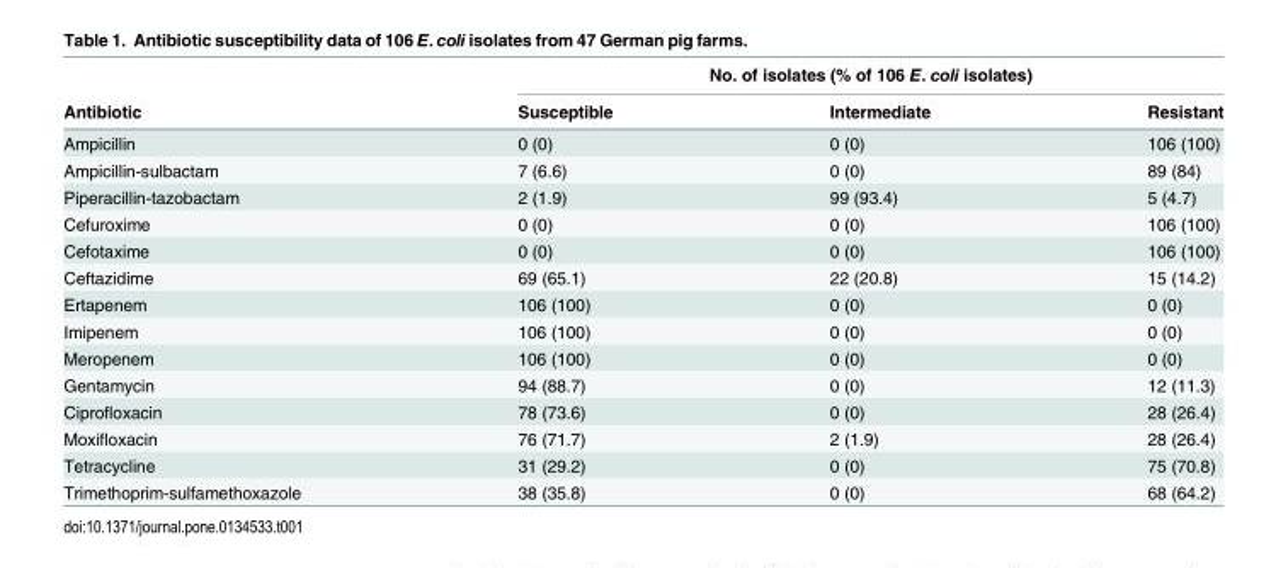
<table><thead><tr><td rowspan="2">Antibiotic</td><td colspan="3">No. of isolates (% of 106 E. coli isolates)</td></tr><tr><td>Susceptible</td><td>Intermediate</td><td>Resistant</td></tr></thead><tbody><tr><td>Ampicillin</td><td>0 (0)</td><td>0 (0)</td><td>106 (100)</td></tr><tr><td>Ampicillin-sulbactam</td><td>7 (6.6)</td><td>0 (0)</td><td>89 (84)</td></tr><tr><td>Piperacillin-tazobactam</td><td>2 (1.9)</td><td>99 (93.4)</td><td>5 (4.7)</td></tr><tr><td>Cefuroxime</td><td>0 (0)</td><td>0 (0)</td><td>106 (100)</td></tr><tr><td>Cefotaxime</td><td>0 (0)</td><td>0 (0)</td><td>106 (100)</td></tr><tr><td>Ceftazidime</td><td>69 (65.1)</td><td>22 (20.8)</td><td>15 (14.2)</td></tr><tr><td>Ertapenem</td><td>106 (100)</td><td>0 (0)</td><td>0 (0)</td></tr><tr><td>Imipenem</td><td>106 (100)</td><td>0 (0)</td><td>0 (0)</td></tr><tr><td>Meropenem</td><td>106 (100)</td><td>0 (0)</td><td>0 (0)</td></tr><tr><td>Gentamycin</td><td>94 (88.7)</td><td>0 (0)</td><td>12 (11.3)</td></tr><tr><td>Ciprofloxacin</td><td>78 (73.6)</td><td>0 (0)</td><td>28 (26.4)</td></tr><tr><td>Moxifloxacin</td><td>76 (71.7)</td><td>2 (1.9)</td><td>28 (26.4)</td></tr><tr><td>Tetracycline</td><td>31 (29.2)</td><td>0 (0)</td><td>75 (70.8)</td></tr><tr><td>Trimethoprim-sulfamethoxazole</td><td>38 (35.8)</td><td>0 (0)</td><td>68 (64.2)</td></tr></tbody></table>